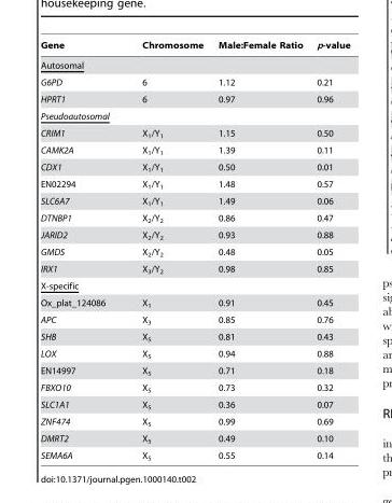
<table><thead><tr><td>Gene</td><td>Chromosome</td><td>Male:Female Ratio</td><td>p-value</td></tr></thead><tbody><tr><td colspan="4">Autosomal</td></tr><tr><td>G6PD</td><td>6</td><td>1.12</td><td>0.21</td></tr><tr><td>HPRT1</td><td>6</td><td>0.97</td><td>0.96</td></tr><tr><td colspan="4">Pseudoautosomal</td></tr><tr><td>CRIM1</td><td>X<sub>1</sub>/Y<sub>1</sub></td><td>1.15</td><td>0.50</td></tr><tr><td>CAMK2A</td><td>X<sub>1</sub>/Y<sub>1</sub></td><td>1.39</td><td>0.11</td></tr><tr><td>CDX1</td><td>X<sub>1</sub>/Y<sub>1</sub></td><td>0.50</td><td>0.01</td></tr><tr><td>EN02294</td><td>X<sub>1</sub>/Y<sub>1</sub></td><td>1.48</td><td>0.57</td></tr><tr><td>SLC6A7</td><td>X<sub>1</sub>/Y<sub>1</sub></td><td>1.49</td><td>0.06</td></tr><tr><td>DTNBP1</td><td>X<sub>2</sub>/Y<sub>2</sub></td><td>0.86</td><td>0.47</td></tr><tr><td>JARID2</td><td>X<sub>2</sub>/Y<sub>2</sub></td><td>0.93</td><td>0.88</td></tr><tr><td>GMDS</td><td>X<sub>2</sub>/Y<sub>2</sub></td><td>0.48</td><td>0.05</td></tr><tr><td>IRX1</td><td>X<sub>3</sub>/Y<sub>2</sub></td><td>0.98</td><td>0.85</td></tr><tr><td colspan="4">X-specific</td></tr><tr><td>Ox_plat_124086</td><td>X<sub>1</sub></td><td>0.91</td><td>0.45</td></tr><tr><td>APC</td><td>X<sub>3</sub></td><td>0.85</td><td>0.76</td></tr><tr><td>SHB</td><td>X<sub>5</sub></td><td>0.81</td><td>0.43</td></tr><tr><td>LOX</td><td>X<sub>5</sub></td><td>0.94</td><td>0.88</td></tr><tr><td>EN14997</td><td>X<sub>5</sub></td><td>0.71</td><td>0.18</td></tr><tr><td>FBXO10</td><td>X<sub>5</sub></td><td>0.73</td><td>0.32</td></tr><tr><td>SLC1A1</td><td>X<sub>5</sub></td><td>0.36</td><td>0.07</td></tr><tr><td>ZNF474</td><td>X<sub>5</sub></td><td>0.99</td><td>0.69</td></tr><tr><td>DMRT2</td><td>X<sub>5</sub></td><td>0.49</td><td>0.10</td></tr><tr><td>SEMA6A</td><td>X<sub>5</sub></td><td>0.55</td><td>0.14</td></tr></tbody></table>